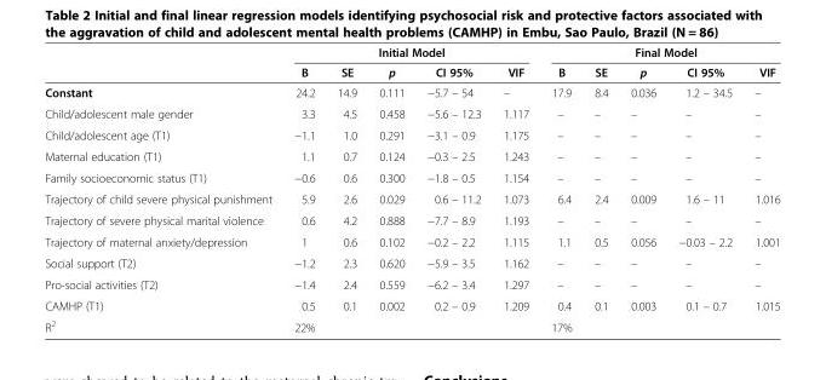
<table><thead><tr><td rowspan="2"></td><td colspan="5">Initial Model</td><td colspan="5">Final Model</td></tr><tr><td>B</td><td>SE</td><td>p</td><td>CI 95%</td><td>VIF</td><td>B</td><td>SE</td><td>p</td><td>CI 95%</td><td>VIF</td></tr></thead><tbody><tr><td>Constant</td><td>24.2</td><td>14.9</td><td>0.111</td><td>−5.7 – 54</td><td>–</td><td>17.9</td><td>8.4</td><td>0.036</td><td>1.2 – 34.5</td><td>–</td></tr><tr><td>Child/adolescent male gender</td><td>3.3</td><td>4.5</td><td>0.458</td><td>−5.6 – 12.3</td><td>1.117</td><td>–</td><td>–</td><td>–</td><td>–</td><td>–</td></tr><tr><td>Child/adolescent age (T1)</td><td>−1.1</td><td>1.0</td><td>0.291</td><td>−3.1 – 0.9</td><td>1.175</td><td>–</td><td>–</td><td>–</td><td>–</td><td>–</td></tr><tr><td>Maternal education (T1)</td><td>1.1</td><td>0.7</td><td>0.124</td><td>−0.3 – 2.5</td><td>1.243</td><td>–</td><td>–</td><td>–</td><td>–</td><td>–</td></tr><tr><td>Family socioeconomic status (T1)</td><td>−0.6</td><td>0.6</td><td>0.300</td><td>−1.8 – 0.5</td><td>1.154</td><td>–</td><td>–</td><td>–</td><td>–</td><td>–</td></tr><tr><td>Trajectory of child severe physical punishment</td><td>5.9</td><td>2.6</td><td>0.029</td><td>0.6 – 11.2</td><td>1.073</td><td>6.4</td><td>2.4</td><td>0.009</td><td>1.6 – 11</td><td>1.016</td></tr><tr><td>Trajectory of severe physical marital violence</td><td>0.6</td><td>4.2</td><td>0.888</td><td>−7.7 – 8.9</td><td>1.193</td><td>–</td><td>–</td><td>–</td><td>–</td><td>–</td></tr><tr><td>Trajectory of maternal anxiety/depression</td><td>1</td><td>0.6</td><td>0.102</td><td>−0.2 – 2.2</td><td>1.115</td><td>1.1</td><td>0.5</td><td>0.056</td><td>−0.03 – 2.2</td><td>1.001</td></tr><tr><td>Social support (T2)</td><td>−1.2</td><td>2.3</td><td>0.620</td><td>−5.9 – 3.5</td><td>1.162</td><td>–</td><td>–</td><td>–</td><td>–</td><td>–</td></tr><tr><td>Pro-social activities (T2)</td><td>−1.4</td><td>2.4</td><td>0.559</td><td>−6.2 – 3.4</td><td>1.297</td><td>–</td><td>–</td><td>–</td><td>–</td><td>–</td></tr><tr><td>CAMHP (T1)</td><td>0.5</td><td>0.1</td><td>0.002</td><td>0.2 – 0.9</td><td>1.209</td><td>0.4</td><td>0.1</td><td>0.003</td><td>0.1 – 0.7</td><td>1.015</td></tr><tr><td>R<sup>2</sup></td><td>22%</td><td></td><td></td><td></td><td></td><td>17%</td><td></td><td></td><td></td><td></td></tr></tbody></table>